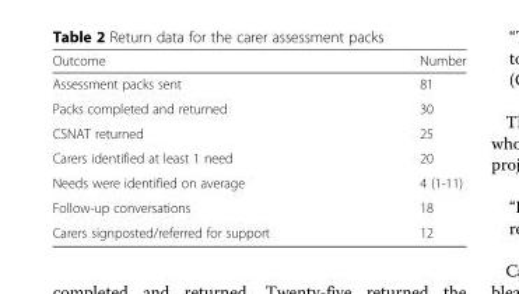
<table><thead><tr><td>Outcome</td><td>Number</td></tr></thead><tbody><tr><td>Assessment packs sent</td><td>81</td></tr><tr><td>Packs completed and returned</td><td>30</td></tr><tr><td>CSNAT returned</td><td>25</td></tr><tr><td>Carers identified at least 1 need</td><td>20</td></tr><tr><td>Needs were identified on average</td><td>4 (1-11)</td></tr><tr><td>Follow-up conversations</td><td>18</td></tr><tr><td>Carers signposted/referred for support</td><td>12</td></tr></tbody></table>